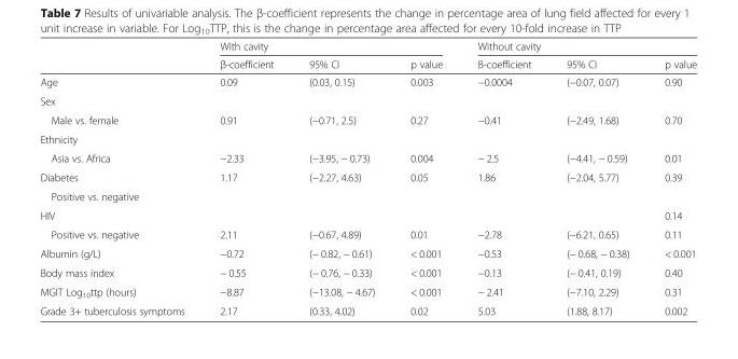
<table><thead><tr><td rowspan="2"></td><td colspan="3">With cavity</td><td colspan="3">Without cavity</td></tr><tr><td>β-coefficient</td><td>95% CI</td><td>p value</td><td>B-coefficient</td><td>95% CI</td><td>p value</td></tr></thead><tbody><tr><td>Age</td><td>0.09</td><td>(0.03, 0.15)</td><td>0.003</td><td>−0.0004</td><td>(−0.07, 0.07)</td><td>0.90</td></tr><tr><td colspan="7">Sex</td></tr><tr><td>Male vs. female</td><td>0.91</td><td>(−0.71, 2.5)</td><td>0.27</td><td>−0.41</td><td>(−2.49, 1.68)</td><td>0.70</td></tr><tr><td colspan="7">Ethnicity</td></tr><tr><td>Asia vs. Africa</td><td>−2.33</td><td>(−3.95, − 0.73)</td><td>0.004</td><td>− 2.5</td><td>(−4.41, − 0.59)</td><td>0.01</td></tr><tr><td>Diabetes</td><td>1.17</td><td>(−2.27, 4.63)</td><td>0.05</td><td>1.86</td><td>(−2.04, 5.77)</td><td>0.39</td></tr><tr><td colspan="7">Positive vs. negative</td></tr><tr><td>HIV</td><td></td><td></td><td></td><td></td><td></td><td>0.14</td></tr><tr><td>Positive vs. negative</td><td>2.11</td><td>(−0.67, 4.89)</td><td>0.01</td><td>−2.78</td><td>(−6.21, 0.65)</td><td>0.11</td></tr><tr><td>Albumin (g/L)</td><td>−0.72</td><td>(− 0.82, − 0.61)</td><td>&lt; 0.001</td><td>−0.53</td><td>(− 0.68, − 0.38)</td><td>&lt; 0.001</td></tr><tr><td>Body mass index</td><td>− 0.55</td><td>(− 0.76, − 0.33)</td><td>&lt; 0.001</td><td>−0.13</td><td>(− 0.41, 0.19)</td><td>0.40</td></tr><tr><td>MGIT Log<sub>10</sub>ttp (hours)</td><td>−8.87</td><td>(−13.08, − 4.67)</td><td>&lt; 0.001</td><td>− 2.41</td><td>(−7.10, 2.29)</td><td>0.31</td></tr><tr><td>Grade 3+ tuberculosis symptoms</td><td>2.17</td><td>(0.33, 4.02)</td><td>0.02</td><td>5.03</td><td>(1.88, 8.17)</td><td>0.002</td></tr></tbody></table>